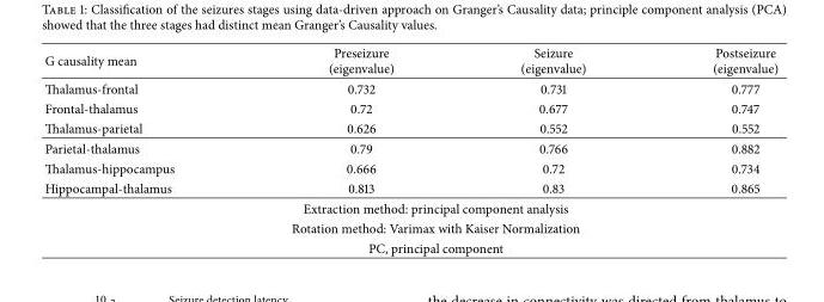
<table><thead><tr><td>G causality mean</td><td>Preseizure (eigenvalue)</td><td>Seizure (eigenvalue)</td><td>Postseizure (eigenvalue)</td></tr></thead><tbody><tr><td>Thalamus-frontal</td><td>0.732</td><td>0.731</td><td>0.777</td></tr><tr><td>Frontal-thalamus</td><td>0.72</td><td>0.677</td><td>0.747</td></tr><tr><td>Thalamus-parietal</td><td>0.626</td><td>0.552</td><td>0.552</td></tr><tr><td>Parietal-thalamus</td><td>0.79</td><td>0.766</td><td>0.882</td></tr><tr><td>Thalamus-hippocampus</td><td>0.666</td><td>0.72</td><td>0.734</td></tr><tr><td>Hippocampal-thalamus</td><td>0.813</td><td>0.83</td><td>0.865</td></tr><tr><td colspan="4">Extraction method: principal component analysis</td></tr><tr><td colspan="4">Rotation method: Varimax with Kaiser Normalization</td></tr><tr><td colspan="4">PC, principal component</td></tr></tbody></table>